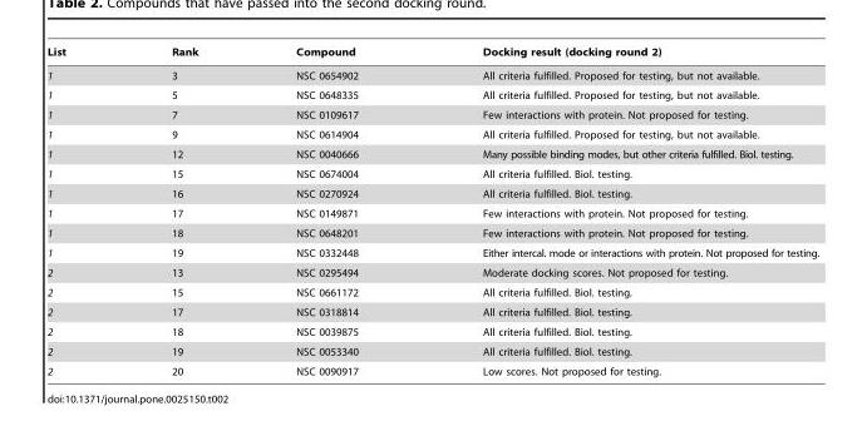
<table><thead><tr><td>List</td><td>Rank</td><td>Compound</td><td>Docking result (docking round 2)</td></tr></thead><tbody><tr><td>1</td><td>3</td><td>NSC 0654902</td><td>All criteria fulfilled. Proposed for testing, but not available.</td></tr><tr><td>1</td><td>5</td><td>NSC 0648335</td><td>All criteria fulfilled. Proposed for testing, but not available.</td></tr><tr><td>1</td><td>7</td><td>NSC 0109617</td><td>Few interactions with protein. Not proposed for testing.</td></tr><tr><td>1</td><td>9</td><td>NSC 0614904</td><td>All criteria fulfilled. Proposed for testing, but not available.</td></tr><tr><td>1</td><td>12</td><td>NSC 0040666</td><td>Many possible binding modes, but other criteria fulfilled. Biol. testing.</td></tr><tr><td>1</td><td>15</td><td>NSC 0674004</td><td>All criteria fulfilled. Biol. testing.</td></tr><tr><td>1</td><td>16</td><td>NSC 0270924</td><td>All criteria fulfilled. Biol. testing.</td></tr><tr><td>1</td><td>17</td><td>NSC 0149871</td><td>Few interactions with protein. Not proposed for testing.</td></tr><tr><td>1</td><td>18</td><td>NSC 0648201</td><td>Few interactions with protein. Not proposed for testing.</td></tr><tr><td>1</td><td>19</td><td>NSC 0332448</td><td>Either intercal. mode or interactions with protein. Not proposed for testing.</td></tr><tr><td>2</td><td>13</td><td>NSC 0295494</td><td>Moderate docking scores. Not proposed for testing.</td></tr><tr><td>2</td><td>15</td><td>NSC 0661172</td><td>All criteria fulfilled. Biol. testing.</td></tr><tr><td>2</td><td>17</td><td>NSC 0318814</td><td>All criteria fulfilled. Biol. testing.</td></tr><tr><td>2</td><td>18</td><td>NSC 0039875</td><td>All criteria fulfilled. Biol. testing.</td></tr><tr><td>2</td><td>19</td><td>NSC 0053340</td><td>All criteria fulfilled. Biol. testing.</td></tr><tr><td>2</td><td>20</td><td>NSC 0090917</td><td>Low scores. Not proposed for testing.</td></tr></tbody></table>